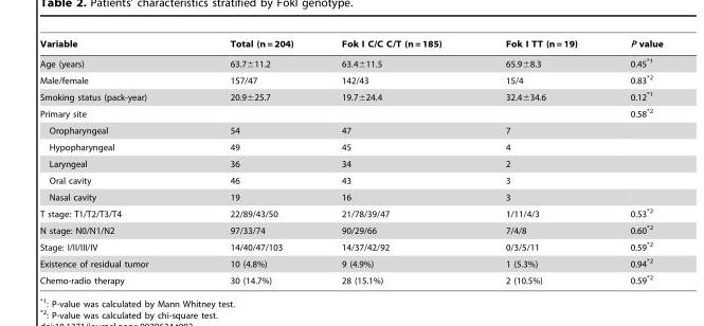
<table><thead><tr><td>Variable</td><td>Total (n = 204)</td><td>Fok I C/C C/T (n = 185)</td><td>Fok I TT (n = 19)</td><td>P value</td></tr></thead><tbody><tr><td>Age (years)</td><td>63.7±11.2</td><td>63.4±11.5</td><td>65.9±8.3</td><td>0.45*1</td></tr><tr><td>Male/female</td><td>157/47</td><td>142/43</td><td>15/4</td><td>0.83*2</td></tr><tr><td>Smoking status (pack-year)</td><td>20.9±25.7</td><td>19.7±24.4</td><td>32.4±34.6</td><td>0.12*1</td></tr><tr><td>Primary site</td><td></td><td></td><td></td><td>0.58*2</td></tr><tr><td>Oropharyngeal</td><td>54</td><td>47</td><td>7</td><td></td></tr><tr><td>Hypopharyngeal</td><td>49</td><td>45</td><td>4</td><td></td></tr><tr><td>Laryngeal</td><td>36</td><td>34</td><td>2</td><td></td></tr><tr><td>Oral cavity</td><td>46</td><td>43</td><td>3</td><td></td></tr><tr><td>Nasal cavity</td><td>19</td><td>16</td><td>3</td><td></td></tr><tr><td>T stage: T1/T2/T3/T4</td><td>22/89/43/50</td><td>21/78/39/47</td><td>1/11/4/3</td><td>0.53*2</td></tr><tr><td>N stage: N0/N1/N2</td><td>97/33/74</td><td>90/29/66</td><td>7/4/8</td><td>0.60*2</td></tr><tr><td>Stage: I/II/III/IV</td><td>14/40/47/103</td><td>14/37/42/92</td><td>0/3/5/11</td><td>0.59*2</td></tr><tr><td>Existence of residual tumor</td><td>10 (4.8%)</td><td>9 (4.9%)</td><td>1 (5.3%)</td><td>0.94*2</td></tr><tr><td>Chemo-radio therapy</td><td>30 (14.7%)</td><td>28 (15.1%)</td><td>2 (10.5%)</td><td>0.59*2</td></tr></tbody></table>